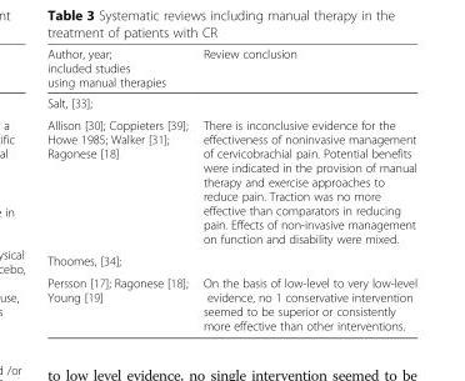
<table><thead><tr><td>Author, year; included studies using manual therapies</td><td>Review conclusion</td></tr></thead><tbody><tr><td colspan="2">Salt, [33];</td></tr><tr><td>Allison [30]; Coppieters [39]; Howe 1985; Walker [31]; Ragonese [18]</td><td>There is inconclusive evidence for the effectiveness of noninvasive management of cervicobrachial pain. Potential benefits were indicated in the provision of manual therapy and exercise approaches to reduce pain. Traction was no more effective than comparators in reducing pain. Effects of non-invasive management on function and disability were mixed.</td></tr><tr><td colspan="2">Thoomes, [34];</td></tr><tr><td>Persson [17]; Ragonese [18]; Young [19]</td><td>On the basis of low-level to very low-level evidence, no 1 conservative intervention seemed to be superior or consistently more effective than other interventions.</td></tr></tbody></table>